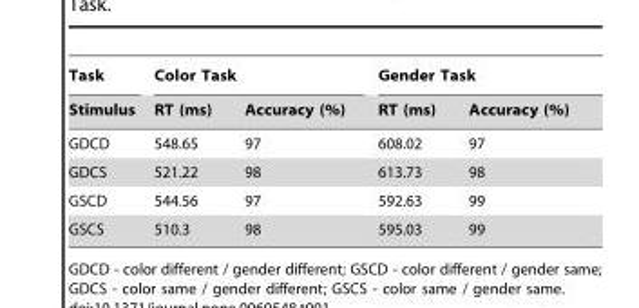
<table><thead><tr><td rowspan="2">Task Stimulus</td><td colspan="2">Color Task</td><td colspan="2">Gender Task</td></tr><tr><td>RT (ms)</td><td>Accuracy (%)</td><td>RT (ms)</td><td>Accuracy (%)</td></tr></thead><tbody><tr><td>GDCD</td><td>548.65</td><td>97</td><td>608.02</td><td>97</td></tr><tr><td>GDCS</td><td>521.22</td><td>98</td><td>613.73</td><td>98</td></tr><tr><td>GSCD</td><td>544.56</td><td>97</td><td>592.63</td><td>99</td></tr><tr><td>GSCS</td><td>510.3</td><td>98</td><td>595.03</td><td>99</td></tr></tbody></table>